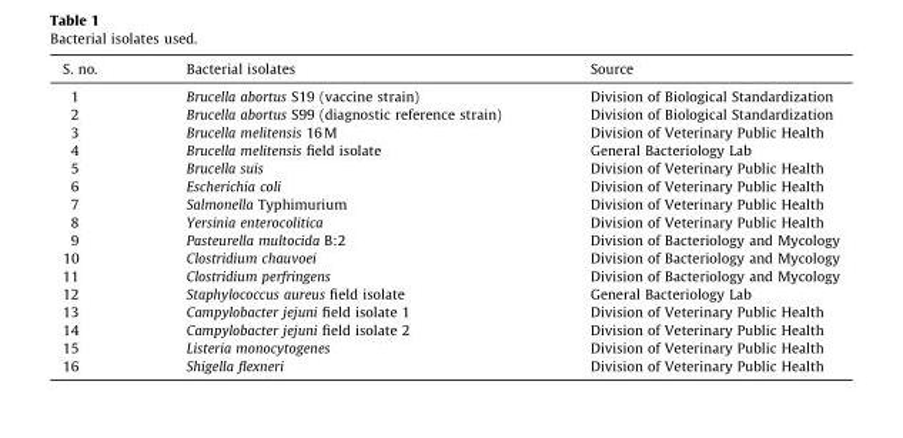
<table><thead><tr><td>S. no.</td><td>Bacterial isolates</td><td>Source</td></tr></thead><tbody><tr><td>1</td><td>Brucella abortus S19 (vaccine strain)</td><td>Division of Biological Standardization</td></tr><tr><td>2</td><td>Brucella abortus S99 (diagnostic reference strain)</td><td>Division of Biological Standardization</td></tr><tr><td>3</td><td>Brucella melitensis 16M</td><td>Division of Veterinary Public Health</td></tr><tr><td>4</td><td>Brucella melitensis field isolate</td><td>General Bacteriology Lab</td></tr><tr><td>5</td><td>Brucella suis</td><td>Division of Veterinary Public Health</td></tr><tr><td>6</td><td>Escherichia coli</td><td>Division of Veterinary Public Health</td></tr><tr><td>7</td><td>Salmonella Typhimurium</td><td>Division of Veterinary Public Health</td></tr><tr><td>8</td><td>Yersinia enterocolitica</td><td>Division of Veterinary Public Health</td></tr><tr><td>9</td><td>Pasteurella multocida B:2</td><td>Division of Bacteriology and Mycology</td></tr><tr><td>10</td><td>Clostridium chauvoei</td><td>Division of Bacteriology and Mycology</td></tr><tr><td>11</td><td>Clostridium perfringens</td><td>Division of Bacteriology and Mycology</td></tr><tr><td>12</td><td>Staphylococcus aureus field isolate</td><td>General Bacteriology Lab</td></tr><tr><td>13</td><td>Campylobacter jejuni field isolate 1</td><td>Division of Veterinary Public Health</td></tr><tr><td>14</td><td>Campylobacter jejuni field isolate 2</td><td>Division of Veterinary Public Health</td></tr><tr><td>15</td><td>Listeria monocytogenes</td><td>Division of Veterinary Public Health</td></tr><tr><td>16</td><td>Shigella flexneri</td><td>Division of Veterinary Public Health</td></tr></tbody></table>